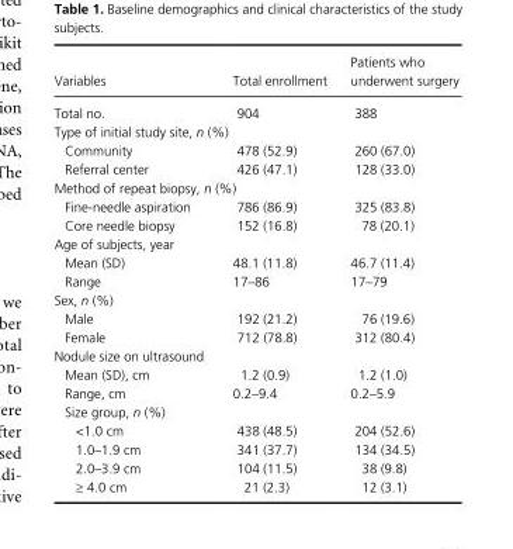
<table><thead><tr><td>Variables</td><td>Total enrollment</td><td>Patients who underwent surgery</td></tr></thead><tbody><tr><td>Total no.</td><td>904</td><td>388</td></tr><tr><td colspan="3">Type of initial study site, n (%)</td></tr><tr><td>Community</td><td>478 (52.9)</td><td>260 (67.0)</td></tr><tr><td>Referral center</td><td>426 (47.1)</td><td>128 (33.0)</td></tr><tr><td colspan="3">Method of repeat biopsy, n (%)</td></tr><tr><td>Fine- needle aspiration</td><td>786 (86.9)</td><td>325 (83.8)</td></tr><tr><td>Core needle biopsy</td><td>152 (16.8)</td><td>78 (20.1)</td></tr><tr><td colspan="3">Age of subjects, year</td></tr><tr><td>Mean (SD)</td><td>48.1 (11.8)</td><td>46.7 (11.4)</td></tr><tr><td>Range</td><td>17–86</td><td>17–79</td></tr><tr><td colspan="3">Sex, n (%)</td></tr><tr><td>Male</td><td>192 (21.2)</td><td>76 (19.6)</td></tr><tr><td>Female</td><td>712 (78.8)</td><td>312 (80.4)</td></tr><tr><td colspan="3">Nodule size on ultrasound</td></tr><tr><td>Mean (SD), cm</td><td>1.2 (0.9)</td><td>1.2 (1.0)</td></tr><tr><td>Range, cm</td><td>0.2–9.4</td><td>0.2–5.9</td></tr><tr><td colspan="3">Size group, n (%)</td></tr><tr><td>&lt;1.0 cm</td><td>438 (48.5)</td><td>204 (52.6)</td></tr><tr><td>1.0–1.9 cm</td><td>341 (37.7)</td><td>134 (34.5)</td></tr><tr><td>2.0–3.9 cm</td><td>104 (11.5)</td><td>38 (9.8)</td></tr><tr><td>≥ 4.0 cm</td><td>21 (2.3)</td><td>12 (3.1)</td></tr></tbody></table>